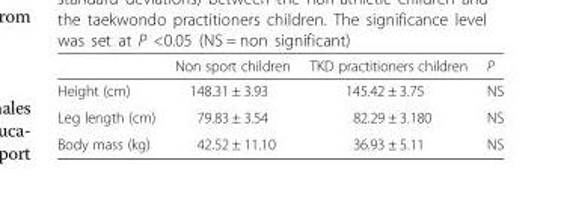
<table><thead><tr><td></td><td>Non sport children</td><td>TKD practitioners children</td><td>P</td></tr></thead><tbody><tr><td>Height (cm)</td><td>148.31 ± 3.93</td><td>145.42 ± 3.75</td><td>NS</td></tr><tr><td>Leg length (cm)</td><td>79.83 ± 3.54</td><td>82.29 ± 3.180</td><td>NS</td></tr><tr><td>Body mass (kg)</td><td>42.52 ± 11.10</td><td>36.93 ± 5.11</td><td>NS</td></tr></tbody></table>